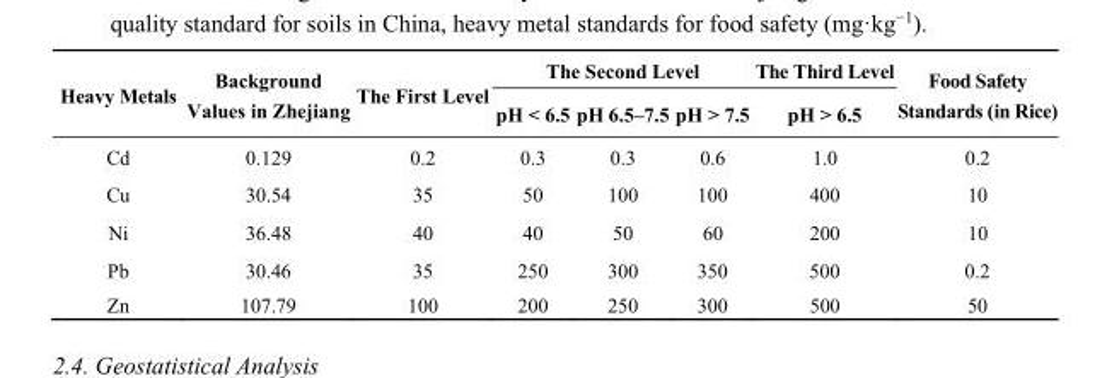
<table><thead><tr><td rowspan="2">Heavy Metals</td><td rowspan="2">Background Values in Zhejiang</td><td rowspan="2">The First Level</td><td colspan="3">The Second Level</td><td rowspan="2">The Third Level pH &gt; 6.5</td><td rowspan="2">Food Safety Standards (in Rice)</td></tr><tr><td>pH &lt; 6.5</td><td>pH 6.5–7.5</td><td>pH &gt; 7.5</td></tr></thead><tbody><tr><td>Cd</td><td>0.129</td><td>0.2</td><td>0.3</td><td>0.3</td><td>0.6</td><td>1.0</td><td>0.2</td></tr><tr><td>Cu</td><td>30.54</td><td>35</td><td>50</td><td>100</td><td>100</td><td>400</td><td>10</td></tr><tr><td>Ni</td><td>36.48</td><td>40</td><td>40</td><td>50</td><td>60</td><td>200</td><td>10</td></tr><tr><td>Pb</td><td>30.46</td><td>35</td><td>250</td><td>300</td><td>350</td><td>500</td><td>0.2</td></tr><tr><td>Zn</td><td>107.79</td><td>100</td><td>200</td><td>250</td><td>300</td><td>500</td><td>50</td></tr></tbody></table>